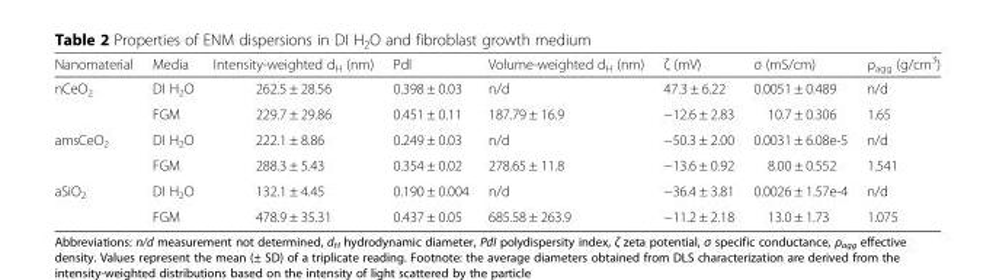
<table><thead><tr><td>Nanomaterial</td><td>Media</td><td>Intensity-weighted d<sub>H</sub> (nm)</td><td>PdI</td><td>Volume-weighted d<sub>H</sub> (nm)</td><td>ζ (mV)</td><td>σ (mS/cm)</td><td>ρ<sub>agg</sub> (g/cm<sup>3</sup>)</td></tr></thead><tbody><tr><td rowspan="2">nCeO<sub>2</sub></td><td>DI H<sub>2</sub>O</td><td>262.5 ± 28.56</td><td>0.398 ± 0.03</td><td>n/d</td><td>47.3 ± 6.22</td><td>0.0051 ± 0.489</td><td>n/d</td></tr><tr><td>FGM</td><td>229.7 ± 29.86</td><td>0.451 ± 0.11</td><td>187.79 ± 16.9</td><td>−12.6 ± 2.83</td><td>10.7 ± 0.306</td><td>1.65</td></tr><tr><td rowspan="2">amsCeO<sub>2</sub></td><td>DI H<sub>2</sub>O</td><td>222.1 ± 8.86</td><td>0.249 ± 0.03</td><td>n/d</td><td>−50.3 ± 2.00</td><td>0.0031 ± 6.08e-5</td><td>n/d</td></tr><tr><td>FGM</td><td>288.3 ± 5.43</td><td>0.354 ± 0.02</td><td>278.65 ± 11.8</td><td>−13.6 ± 0.92</td><td>8.00 ± 0.552</td><td>1.541</td></tr><tr><td rowspan="2">aSiO<sub>2</sub></td><td>DI H<sub>2</sub>O</td><td>132.1 ± 4.45</td><td>0.190 ± 0.004</td><td>n/d</td><td>−36.4 ± 3.81</td><td>0.0026 ± 1.57e-4</td><td>n/d</td></tr><tr><td>FGM</td><td>478.9 ± 35.31</td><td>0.437 ± 0.05</td><td>685.58 ± 263.9</td><td>−11.2 ± 2.18</td><td>13.0 ± 1.73</td><td>1.075</td></tr></tbody></table>